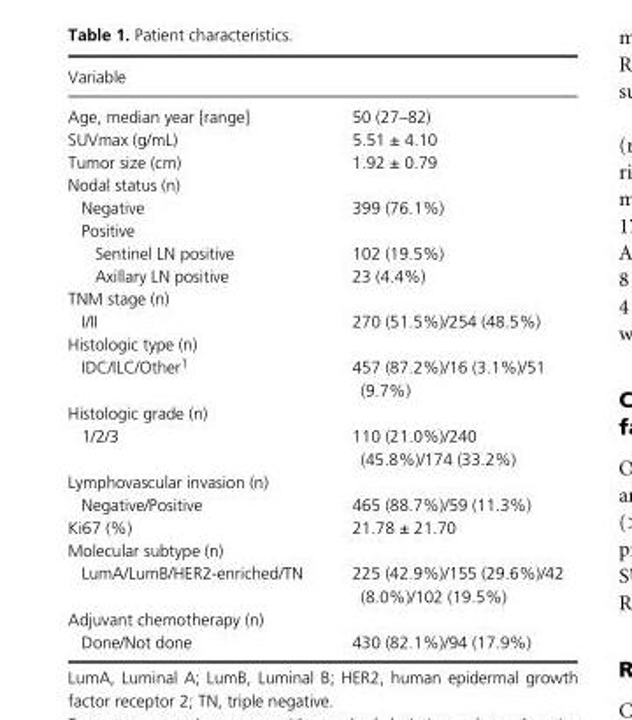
<table><thead><tr><td>Variable</td><td></td></tr></thead><tbody><tr><td>Age, median year [range]</td><td>50 (27–82)</td></tr><tr><td>SUVmax (g/mL)</td><td>5.51 ± 4.10</td></tr><tr><td>Tumor size (cm)</td><td>1.92 ± 0.79</td></tr><tr><td colspan="2">Nodal status (n)</td></tr><tr><td>Negative</td><td>399 (76.1%)</td></tr><tr><td colspan="2">Positive</td></tr><tr><td>Sentinel LN positive</td><td>102 (19.5%)</td></tr><tr><td>Axillary LN positive</td><td>23 (4.4%)</td></tr><tr><td colspan="2">TNM stage (n)</td></tr><tr><td>I/II</td><td>270 (51.5%)/254 (48.5%)</td></tr><tr><td colspan="2">Histologic type (n)</td></tr><tr><td>IDC/ILC/Other1</td><td>457 (87.2%)/16 (3.1%)/51 (9.7%)</td></tr><tr><td colspan="2">Histologic grade (n)</td></tr><tr><td>1/2/3</td><td>110 (21.0%)/240 (45.8%)/174 (33.2%)</td></tr><tr><td colspan="2">Lymphovascular invasion (n)</td></tr><tr><td>Negative/Positive</td><td>465 (88.7%)/59 (11.3%)</td></tr><tr><td>Ki67 (%)</td><td>21.78 ± 21.70</td></tr><tr><td colspan="2">Molecular subtype (n)</td></tr><tr><td>LumA/LumB/HER2- enriched/TN</td><td>225 (42.9%)/155 (29.6%)/42 (8.0%)/102 (19.5%)</td></tr><tr><td colspan="2">Adjuvant chemotherapy (n)</td></tr><tr><td>Done/Not done</td><td>430 (82.1%)/94 (17.9%)</td></tr></tbody></table>